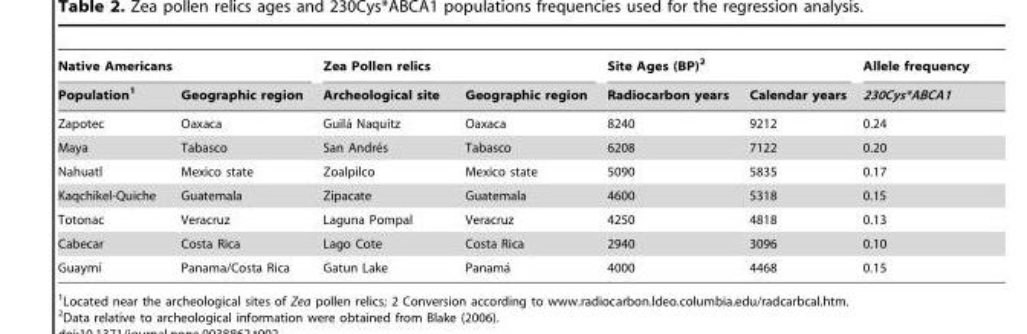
<table><thead><tr><td colspan="2">Native Americans</td><td colspan="2">Zea Pollen relics</td><td colspan="2">Site Ages (BP)<sup>2</sup></td><td rowspan="2">Allele frequency 230Cys*ABCA1</td></tr><tr><td>Population<sup>1</sup></td><td>Geographic region</td><td>Archeological site</td><td>Geographic region</td><td>Radiocarbon years</td><td>Calendar years</td></tr></thead><tbody><tr><td>Zapotec</td><td>Oaxaca</td><td>Guila´ Naquitz</td><td>Oaxaca</td><td>8240</td><td>9212</td><td>0.24</td></tr><tr><td>Maya</td><td>Tabasco</td><td>San Andre´s</td><td>Tabasco</td><td>6208</td><td>7122</td><td>0.20</td></tr><tr><td>Nahuatl</td><td>Mexico state</td><td>Zoalpilco</td><td>Mexico state</td><td>5090</td><td>5835</td><td>0.17</td></tr><tr><td>Kaqchikel-Quiche</td><td>Guatemala</td><td>Zipacate</td><td>Guatemala</td><td>4600</td><td>5318</td><td>0.15</td></tr><tr><td>Totonac</td><td>Veracruz</td><td>Laguna Pompal</td><td>Veracruz</td><td>4250</td><td>4818</td><td>0.13</td></tr><tr><td>Cabecar</td><td>Costa Rica</td><td>Lago Cote</td><td>Costa Rica</td><td>2940</td><td>3096</td><td>0.10</td></tr><tr><td>Guaymı´</td><td>Panama/Costa Rica</td><td>Gatun Lake</td><td>Panama´</td><td>4000</td><td>4468</td><td>0.15</td></tr></tbody></table>